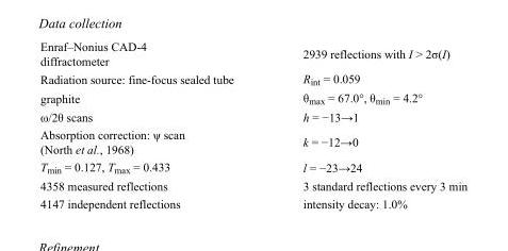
<table><tbody><tr><td>Enraf–Nonius CAD-4 diffractometer</td><td>2939 reflections with I &gt; 2σ(I)</td></tr><tr><td>Radiation source: fine-focus sealed tube</td><td>R<sub>int</sub> = 0.059</td></tr><tr><td>graphite</td><td>θ<sub>max</sub> = 67.0°, θ<sub>min</sub> = 4.2°</td></tr><tr><td>ω/2θ scans</td><td>h = −13→1</td></tr><tr><td>Absorption correction: ψ scan (North et al., 1968)</td><td>k = −12→0</td></tr><tr><td>T<sub>min</sub> = 0.127, T<sub>max</sub> = 0.433</td><td>l = −23→24</td></tr><tr><td>4358 measured reflections</td><td>3 standard reflections every 3 min</td></tr><tr><td>4147 independent reflections</td><td>intensity decay: 1.0%</td></tr></tbody></table>